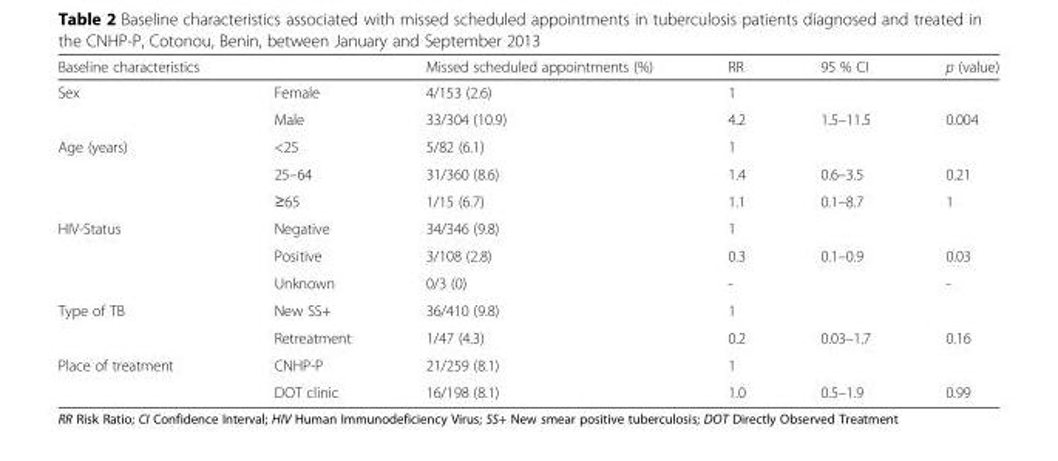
<table><thead><tr><td>Baseline characteristics</td><td></td><td>Missed scheduled appointments (%)</td><td>RR</td><td>95 % CI</td><td>p (value)</td></tr></thead><tbody><tr><td rowspan="2">Sex</td><td>Female</td><td>4/153 (2.6)</td><td>1</td><td></td><td></td></tr><tr><td>Male</td><td>33/304 (10.9)</td><td>4.2</td><td>1.5–11.5</td><td>0.004</td></tr><tr><td rowspan="3">Age (years)</td><td>&lt;25</td><td>5/82 (6.1)</td><td>1</td><td></td><td></td></tr><tr><td>25–64</td><td>31/360 (8.6)</td><td>1.4</td><td>0.6–3.5</td><td>0.21</td></tr><tr><td>≥65</td><td>1/15 (6.7)</td><td>1.1</td><td>0.1–8.7</td><td>1</td></tr><tr><td rowspan="3">HIV-Status</td><td>Negative</td><td>34/346 (9.8)</td><td>1</td><td></td><td></td></tr><tr><td>Positive</td><td>3/108 (2.8)</td><td>0.3</td><td>0.1–0.9</td><td>0.03</td></tr><tr><td>Unknown</td><td>0/3 (0)</td><td>-</td><td></td><td>-</td></tr><tr><td rowspan="2">Type of TB</td><td>New SS+</td><td>36/410 (9.8)</td><td>1</td><td></td><td></td></tr><tr><td>Retreatment</td><td>1/47 (4.3)</td><td>0.2</td><td>0.03–1.7</td><td>0.16</td></tr><tr><td rowspan="2">Place of treatment</td><td>CNHP-P</td><td>21/259 (8.1)</td><td>1</td><td></td><td></td></tr><tr><td>DOT clinic</td><td>16/198 (8.1)</td><td>1.0</td><td>0.5–1.9</td><td>0.99</td></tr></tbody></table>